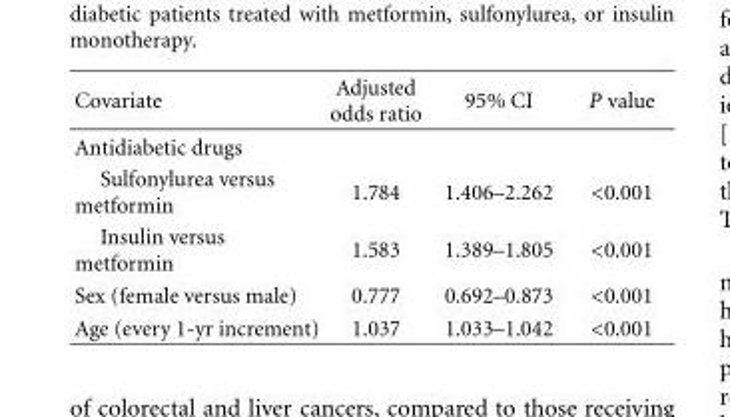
<table><thead><tr><td>Covariate</td><td>Adjusted odds ratio</td><td>95% CI</td><td>P value</td></tr></thead><tbody><tr><td colspan="4">Antidiabetic drugs</td></tr><tr><td>Sulfonylurea versus metformin</td><td>1.784</td><td>1.406–2.262</td><td>&lt;0.001</td></tr><tr><td>Insulin versus metformin</td><td>1.583</td><td>1.389–1.805</td><td>&lt;0.001</td></tr><tr><td>Sex (female versus male)</td><td>0.777</td><td>0.692–0.873</td><td>&lt;0.001</td></tr><tr><td>Age (every 1-yr increment)</td><td>1.037</td><td>1.033–1.042</td><td>&lt;0.001</td></tr></tbody></table>